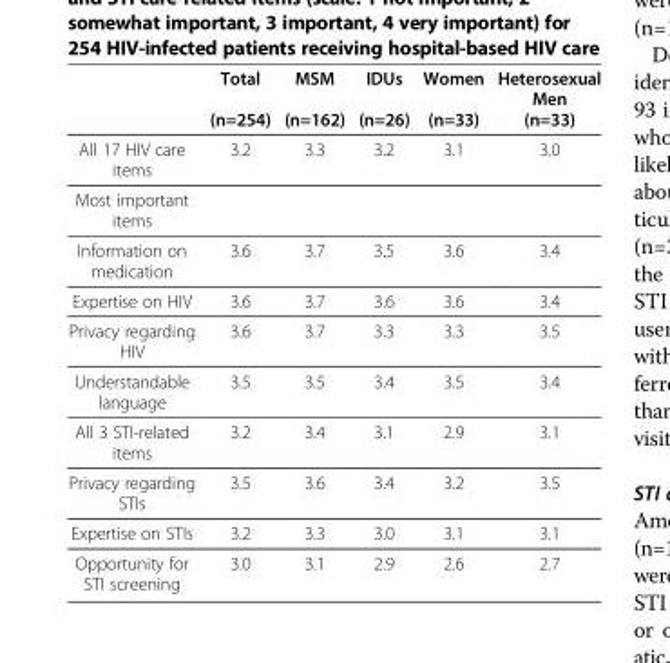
<table><thead><tr><td></td><td>Total (n=254)</td><td>MSM (n=162)</td><td>IDUs (n=26)</td><td>Women (n=33)</td><td>Heterosexual Men (n=33)</td></tr></thead><tbody><tr><td>All 17 HIV care items</td><td>3.2</td><td>3.3</td><td>3.2</td><td>3.1</td><td>3.0</td></tr><tr><td colspan="6">Most important items</td></tr><tr><td>Information on medication</td><td>3.6</td><td>3.7</td><td>3.5</td><td>3.6</td><td>3.4</td></tr><tr><td>Expertise on HIV</td><td>3.6</td><td>3.7</td><td>3.6</td><td>3.6</td><td>3.4</td></tr><tr><td>Privacy regarding HIV</td><td>3.6</td><td>3.7</td><td>3.3</td><td>3.3</td><td>3.5</td></tr><tr><td>Understandable language</td><td>3.5</td><td>3.5</td><td>3.4</td><td>3.5</td><td>3.4</td></tr><tr><td>All 3 STI-related items</td><td>3.2</td><td>3.4</td><td>3.1</td><td>2.9</td><td>3.1</td></tr><tr><td>Privacy regarding STIs</td><td>3.5</td><td>3.6</td><td>3.4</td><td>3.2</td><td>3.5</td></tr><tr><td>Expertise on STIs</td><td>3.2</td><td>3.3</td><td>3.0</td><td>3.1</td><td>3.1</td></tr><tr><td>Opportunity for STI screening</td><td>3.0</td><td>3.1</td><td>2.9</td><td>2.6</td><td>2.7</td></tr></tbody></table>